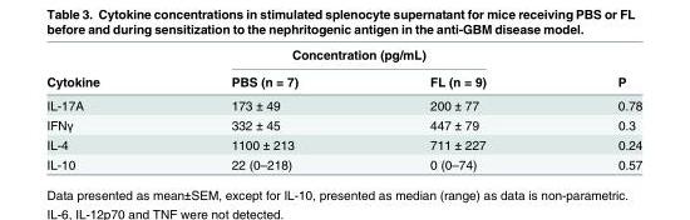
<table><thead><tr><td rowspan="2">Cytokine</td><td colspan="2">Concentration (pg/mL)</td><td rowspan="2">P</td></tr><tr><td>PBS (n = 7)</td><td>FL (n = 9)</td></tr></thead><tbody><tr><td>IL-17A</td><td>173 ± 49</td><td>200 ± 77</td><td>0.78</td></tr><tr><td>IFNγ</td><td>332 ± 45</td><td>447 ± 79</td><td>0.3</td></tr><tr><td>IL-4</td><td>1100 ± 213</td><td>711 ± 227</td><td>0.24</td></tr><tr><td>IL-10</td><td>22 (0–218)</td><td>0 (0–74)</td><td>0.57</td></tr></tbody></table>